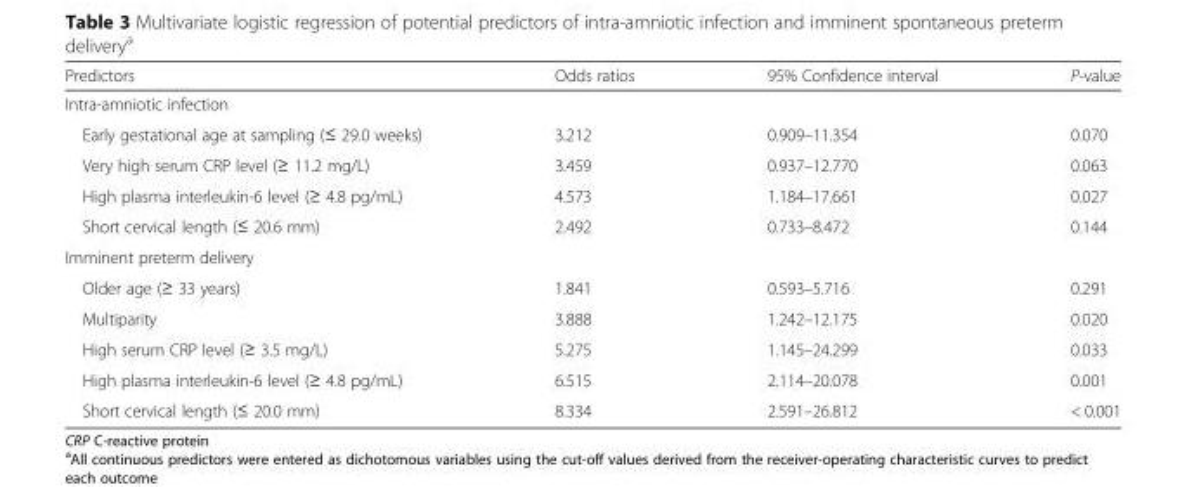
<table><thead><tr><td>Predictors</td><td>Odds ratios</td><td>95% Confidence interval</td><td>P-value</td></tr></thead><tbody><tr><td colspan="4">Intra-amniotic infection</td></tr><tr><td>Early gestational age at sampling (≤ 29.0 weeks)</td><td>3.212</td><td>0.909–11.354</td><td>0.070</td></tr><tr><td>Very high serum CRP level (≥ 11.2 mg/L)</td><td>3.459</td><td>0.937–12.770</td><td>0.063</td></tr><tr><td>High plasma interleukin-6 level (≥ 4.8 pg/mL)</td><td>4.573</td><td>1.184–17.661</td><td>0.027</td></tr><tr><td>Short cervical length (≤ 20.6 mm)</td><td>2.492</td><td>0.733–8.472</td><td>0.144</td></tr><tr><td colspan="4">Imminent preterm delivery</td></tr><tr><td>Older age (≥ 33 years)</td><td>1.841</td><td>0.593–5.716</td><td>0.291</td></tr><tr><td>Multiparity</td><td>3.888</td><td>1.242–12.175</td><td>0.020</td></tr><tr><td>High serum CRP level (≥ 3.5 mg/L)</td><td>5.275</td><td>1.145–24.299</td><td>0.033</td></tr><tr><td>High plasma interleukin-6 level (≥ 4.8 pg/mL)</td><td>6.515</td><td>2.114–20.078</td><td>0.001</td></tr><tr><td>Short cervical length (≤ 20.0 mm)</td><td>8.334</td><td>2.591–26.812</td><td>&lt; 0.001</td></tr></tbody></table>